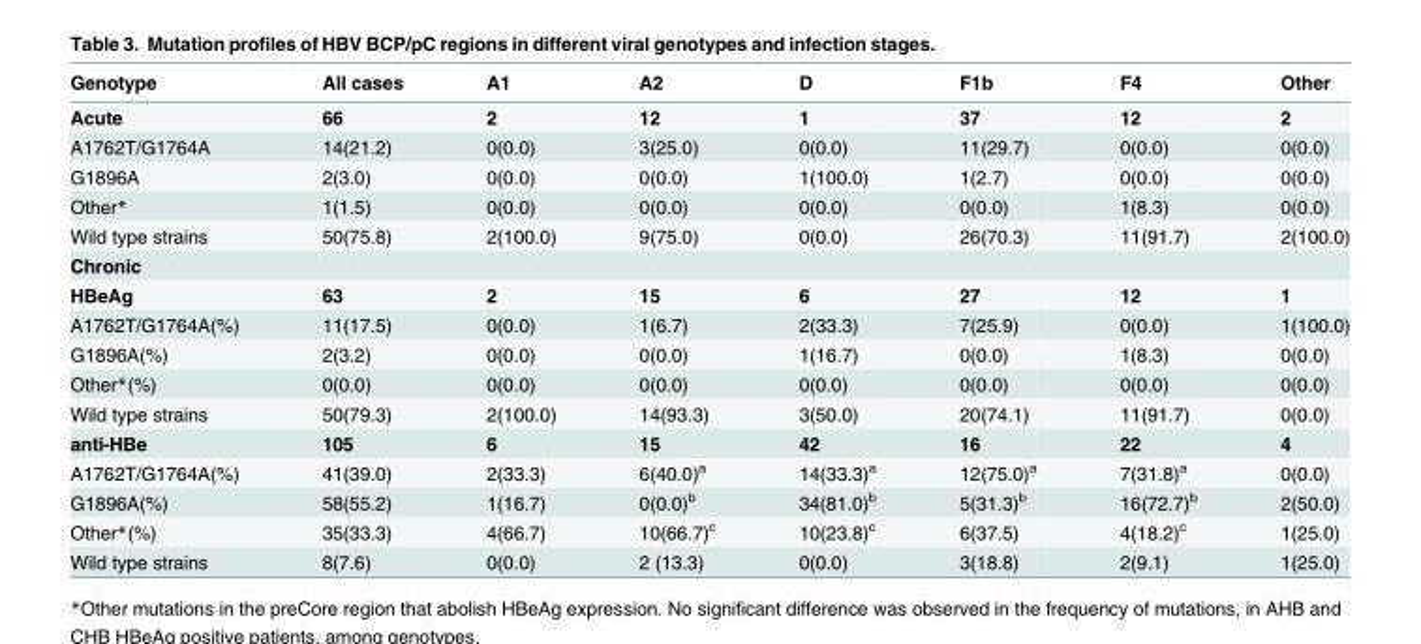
<table><thead><tr><td>Genotype</td><td>All cases</td><td>A1</td><td>A2</td><td>D</td><td>F1b</td><td>F4</td><td>Other</td></tr></thead><tbody><tr><td>Acute</td><td>66</td><td>2</td><td>12</td><td>1</td><td>37</td><td>12</td><td>2</td></tr><tr><td>A1762T/G1764A</td><td>14(21.2)</td><td>0(0.0)</td><td>3(25.0)</td><td>0(0.0)</td><td>11(29.7)</td><td>0(0.0)</td><td>0(0.0)</td></tr><tr><td>G1896A</td><td>2(3.0)</td><td>0(0.0)</td><td>0(0.0)</td><td>1(100.0)</td><td>1(2.7)</td><td>0(0.0)</td><td>0(0.0)</td></tr><tr><td>Other*</td><td>1(1.5)</td><td>0(0.0)</td><td>0(0.0)</td><td>0(0.0)</td><td>0(0.0)</td><td>1(8.3)</td><td>0(0.0)</td></tr><tr><td>Wild type strains</td><td>50(75.8)</td><td>2(100.0)</td><td>9(75.0)</td><td>0(0.0)</td><td>26(70.3)</td><td>11(91.7)</td><td>2(100.0)</td></tr><tr><td colspan="8">Chronic</td></tr><tr><td>HBeAg</td><td>63</td><td>2</td><td>15</td><td>6</td><td>27</td><td>12</td><td>1</td></tr><tr><td>A1762T/G1764A(%)</td><td>11(17.5)</td><td>0(0.0)</td><td>1(6.7)</td><td>2(33.3)</td><td>7(25.9)</td><td>0(0.0)</td><td>1(100.0)</td></tr><tr><td>G1896A(%)</td><td>2(3.2)</td><td>0(0.0)</td><td>0(0.0)</td><td>1(16.7)</td><td>0(0.0)</td><td>1(8.3)</td><td>0(0.0)</td></tr><tr><td>Other*(%)</td><td>0(0.0)</td><td>0(0.0)</td><td>0(0.0)</td><td>0(0.0)</td><td>0(0.0)</td><td>0(0.0)</td><td>0(0.0)</td></tr><tr><td>Wild type strains</td><td>50(79.3)</td><td>2(100.0)</td><td>14(93.3)</td><td>3(50.0)</td><td>20(74.1)</td><td>11(91.7)</td><td>0(0.0)</td></tr><tr><td>anti-HBe</td><td>105</td><td>6</td><td>15</td><td>42</td><td>16</td><td>22</td><td>4</td></tr><tr><td>A1762T/G1764A(%)</td><td>41(39.0)</td><td>2(33.3)</td><td>6(40.0)<sup>a</sup></td><td>14(33.3)<sup>a</sup></td><td>12(75.0)<sup>a</sup></td><td>7(31.8)<sup>a</sup></td><td>0(0.0)</td></tr><tr><td>G1896A(%)</td><td>58(55.2)</td><td>1(16.7)</td><td>0(0.0)<sup>b</sup></td><td>34(81.0)<sup>b</sup></td><td>5(31.3)<sup>b</sup></td><td>16(72.7)<sup>b</sup></td><td>2(50.0)</td></tr><tr><td>Other*(%)</td><td>35(33.3)</td><td>4(66.7)</td><td>10(66.7)<sup>c</sup></td><td>10(23.8)<sup>c</sup></td><td>6(37.5)</td><td>4(18.2)<sup>c</sup></td><td>1(25.0)</td></tr><tr><td>Wild type strains</td><td>8(7.6)</td><td>0(0.0)</td><td>2 (13.3)</td><td>0(0.0)</td><td>3(18.8)</td><td>2(9.1)</td><td>1(25.0)</td></tr></tbody></table>